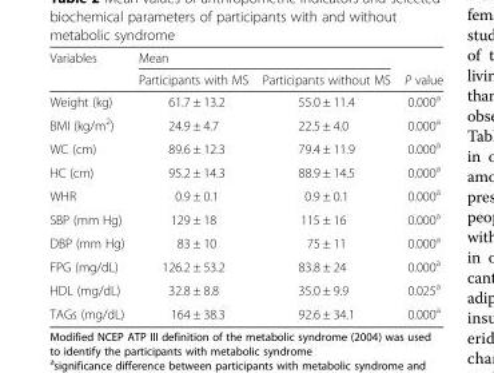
<table><thead><tr><td rowspan="2">Variables</td><td colspan="2">Mean</td><td rowspan="2">P value</td></tr><tr><td>Participants with MS</td><td>Participants without MS</td></tr></thead><tbody><tr><td>Weight (kg)</td><td>61.7 ± 13.2</td><td>55.0 ± 11.4</td><td>0.000<sup>a</sup></td></tr><tr><td>BMI (kg/m<sup>2</sup>)</td><td>24.9 ± 4.7</td><td>22.5 ± 4.0</td><td>0.000<sup>a</sup></td></tr><tr><td>WC (cm)</td><td>89.6 ± 12.3</td><td>79.4 ± 11.9</td><td>0.000<sup>a</sup></td></tr><tr><td>HC (cm)</td><td>95.2 ± 14.3</td><td>88.9 ± 14.5</td><td>0.000<sup>a</sup></td></tr><tr><td>WHR</td><td>0.9 ± 0.1</td><td>0.9 ± 0.1</td><td>0.000<sup>a</sup></td></tr><tr><td>SBP (mm Hg)</td><td>129 ± 18</td><td>115 ± 16</td><td>0.000<sup>a</sup></td></tr><tr><td>DBP (mm Hg)</td><td>83 ± 10</td><td>75 ± 11</td><td>0.000<sup>a</sup></td></tr><tr><td>FPG (mg/dL)</td><td>126.2 ± 53.2</td><td>83.8 ± 24</td><td>0.000<sup>a</sup></td></tr><tr><td>HDL (mg/dL)</td><td>32.8 ± 8.8</td><td>35.0 ± 9.9</td><td>0.025<sup>a</sup></td></tr><tr><td>TAGs (mg/dL)</td><td>164 ± 38.3</td><td>92.6 ± 34.1</td><td>0.000<sup>a</sup></td></tr></tbody></table>